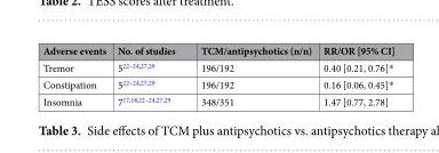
<table><thead><tr><td>Adverse events</td><td>No. of studies</td><td>TCM/antipsychotics (n/n)</td><td>RR/OR [95% CI]</td></tr></thead><tbody><tr><td>Tremor</td><td>5<sup>22–24,27,29</sup></td><td>196/192</td><td>0.40 [0.21, 0.76]*</td></tr><tr><td>Constipation</td><td>5<sup>22–24,27,29</sup></td><td>196/192</td><td>0.16 [0.06, 0.45]*</td></tr><tr><td>Insomnia</td><td>7<sup>17,18,22–24,27,29</sup></td><td>348/351</td><td>1.47 [0.77, 2.78]</td></tr></tbody></table>